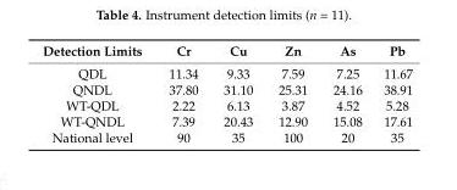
<table><thead><tr><td>Detection Limits</td><td>Cr</td><td>Cu</td><td>Zn</td><td>As</td><td>Pb</td></tr></thead><tbody><tr><td>QDL</td><td>11.34</td><td>9.33</td><td>7.59</td><td>7.25</td><td>11.67</td></tr><tr><td>QNDL</td><td>37.80</td><td>31.10</td><td>25.31</td><td>24.16</td><td>38.91</td></tr><tr><td>WT-QDL</td><td>2.22</td><td>6.13</td><td>3.87</td><td>4.52</td><td>5.28</td></tr><tr><td>WT-QNDL</td><td>7.39</td><td>20.43</td><td>12.90</td><td>15.08</td><td>17.61</td></tr><tr><td>National level</td><td>90</td><td>35</td><td>100</td><td>20</td><td>35</td></tr></tbody></table>